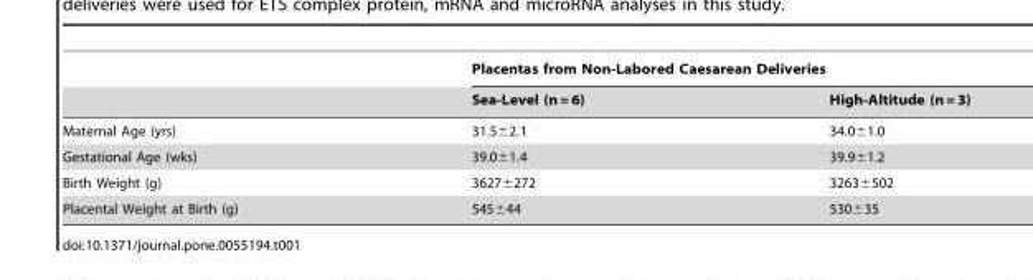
<table><thead><tr><td rowspan="2"></td><td colspan="2">Placentas from Non-Labored Caesarean Deliveries</td></tr><tr><td>Sea-Level (n = 6)</td><td>High-Altitude (n = 3)</td></tr></thead><tbody><tr><td>Maternal Age (yrs)</td><td>31.5±2.1</td><td>34.0±1.0</td></tr><tr><td>Gestational Age (wks)</td><td>39.0±1.4</td><td>39.9±1.2</td></tr><tr><td>Birth Weight (g)</td><td>3627±272</td><td>3263±502</td></tr><tr><td>Placental Weight at Birth (g)</td><td>545±44</td><td>530±35</td></tr></tbody></table>